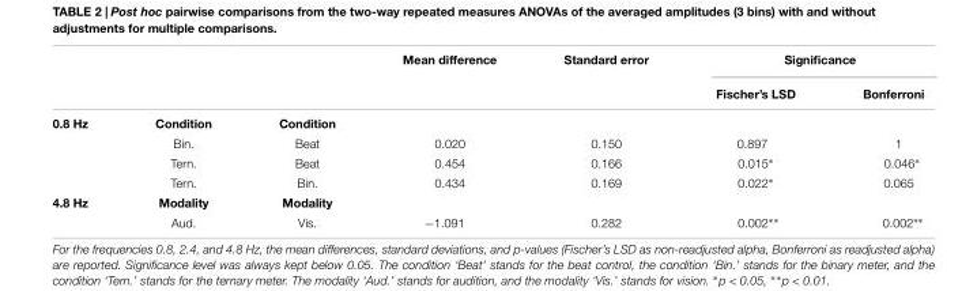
<table><thead><tr><td rowspan="2"></td><td rowspan="2"></td><td rowspan="2"></td><td rowspan="2">Mean difference</td><td rowspan="2">Standard error</td><td colspan="2">Significance</td></tr><tr><td>Fischer’s LSD</td><td>Bonferroni</td></tr></thead><tbody><tr><td rowspan="4">0.8 Hz</td><td>Condition</td><td>Condition</td><td></td><td></td><td></td><td></td></tr><tr><td>Bin.</td><td>Beat</td><td>0.020</td><td>0.150</td><td>0.897</td><td>1</td></tr><tr><td>Tern.</td><td>Beat</td><td>0.454</td><td>0.166</td><td>0.015∗</td><td>0.046∗</td></tr><tr><td>Tern.</td><td>Bin.</td><td>0.434</td><td>0.169</td><td>0.022∗</td><td>0.065</td></tr><tr><td rowspan="2">4.8 Hz</td><td>Modality</td><td>Modality</td><td></td><td></td><td></td><td></td></tr><tr><td>Aud.</td><td>Vis.</td><td>−1.091</td><td>0.282</td><td>0.002∗∗</td><td>0.002∗∗</td></tr></tbody></table>